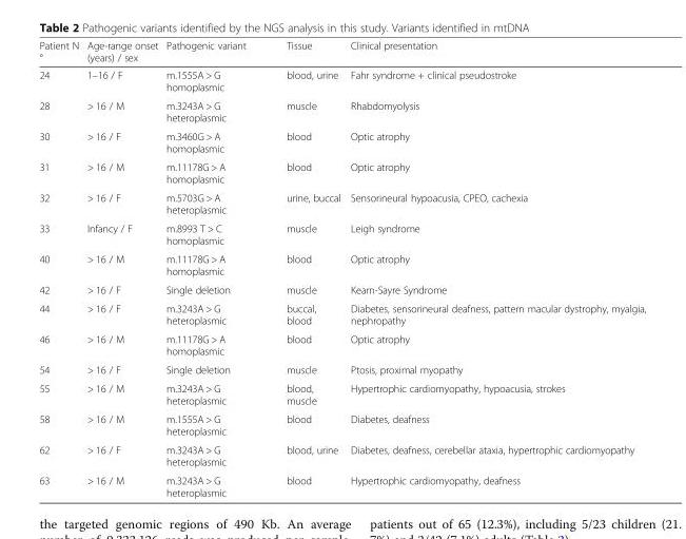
<table><thead><tr><td>Patient N °</td><td>Age-range onset (years) / sex</td><td>Pathogenic variant</td><td>Tissue</td><td>Clinical presentation</td></tr></thead><tbody><tr><td>24</td><td>1–16 / F</td><td>m.1555A &gt; G homoplasmic</td><td>blood, urine</td><td>Fahr syndrome + clinical pseudostroke</td></tr><tr><td>28</td><td>&gt; 16 / M</td><td>m.3243A &gt; G heteroplasmic</td><td>muscle</td><td>Rhabdomyolysis</td></tr><tr><td>30</td><td>&gt; 16 / F</td><td>m.3460G &gt; A homoplasmic</td><td>blood</td><td>Optic atrophy</td></tr><tr><td>31</td><td>&gt; 16 / M</td><td>m.11178G &gt; A homoplasmic</td><td>blood</td><td>Optic atrophy</td></tr><tr><td>32</td><td>&gt; 16 / F</td><td>m.5703G &gt; A heteroplasmic</td><td>urine, buccal</td><td>Sensorineural hypoacusia, CPEO, cachexia</td></tr><tr><td>33</td><td>Infancy / F</td><td>m.8993 T &gt; C homoplasmic</td><td>muscle</td><td>Leigh syndrome</td></tr><tr><td>40</td><td>&gt; 16 / M</td><td>m.11178G &gt; A homoplasmic</td><td>blood</td><td>Optic atrophy</td></tr><tr><td>42</td><td>&gt; 16 / F</td><td>Single deletion</td><td>muscle</td><td>Kearn-Sayre Syndrome</td></tr><tr><td>44</td><td>&gt; 16 / F</td><td>m.3243A &gt; G heteroplasmic</td><td>buccal, blood</td><td>Diabetes, sensorineural deafness, pattern macular dystrophy, myalgia, nephropathy</td></tr><tr><td>46</td><td>&gt; 16 / M</td><td>m.11178G &gt; A homoplasmic</td><td>blood</td><td>Optic atrophy</td></tr><tr><td>54</td><td>&gt; 16 / F</td><td>Single deletion</td><td>muscle</td><td>Ptosis, proximal myopathy</td></tr><tr><td>55</td><td>&gt; 16 / M</td><td>m.3243A &gt; G heteroplasmic</td><td>blood, muscle</td><td>Hypertrophic cardiomyopathy, hypoacusia, strokes</td></tr><tr><td>58</td><td>&gt; 16 / M</td><td>m.1555A &gt; G heteroplasmic</td><td>blood</td><td>Diabetes, deafness</td></tr><tr><td>62</td><td>&gt; 16 / F</td><td>m.3243A &gt; G heteroplasmic</td><td>blood, urine</td><td>Diabetes, deafness, cerebellar ataxia, hypertrophic cardiomyopathy</td></tr><tr><td>63</td><td>&gt; 16 / M</td><td>m.3243A &gt; G heteroplasmic</td><td>blood</td><td>Hypertrophic cardiomyopathy, deafness</td></tr></tbody></table>